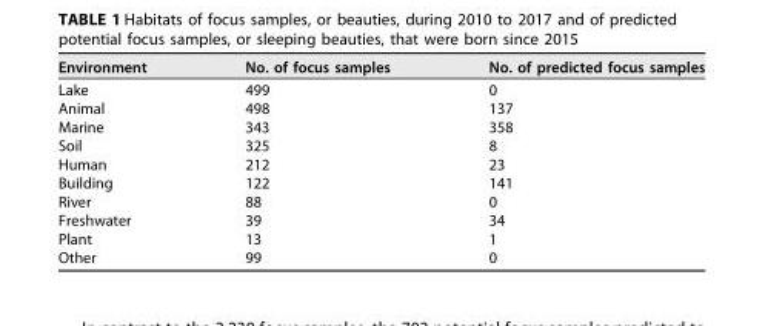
<table><thead><tr><td>Environment</td><td>No. of focus samples</td><td>No. of predicted focus samples</td></tr></thead><tbody><tr><td>Lake</td><td>499</td><td>0</td></tr><tr><td>Animal</td><td>498</td><td>137</td></tr><tr><td>Marine</td><td>343</td><td>358</td></tr><tr><td>Soil</td><td>325</td><td>8</td></tr><tr><td>Human</td><td>212</td><td>23</td></tr><tr><td>Building</td><td>122</td><td>141</td></tr><tr><td>River</td><td>88</td><td>0</td></tr><tr><td>Freshwater</td><td>39</td><td>34</td></tr><tr><td>Plant</td><td>13</td><td>1</td></tr><tr><td>Other</td><td>99</td><td>0</td></tr></tbody></table>